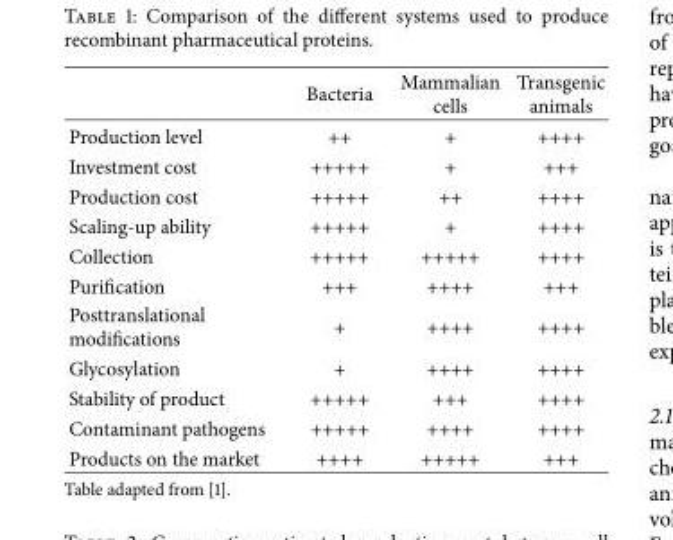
<table><thead><tr><td></td><td>Bacteria</td><td>Mammalian cells</td><td>Transgenic animals</td></tr></thead><tbody><tr><td>Production level</td><td>++</td><td>+</td><td>++++</td></tr><tr><td>Investment cost</td><td>+++++</td><td>+</td><td>+++</td></tr><tr><td>Production cost</td><td>+++++</td><td>++</td><td>++++</td></tr><tr><td>Scaling-up ability</td><td>+++++</td><td>+</td><td>++++</td></tr><tr><td>Collection</td><td>+++++</td><td>+++++</td><td>++++</td></tr><tr><td>Purification</td><td>+++</td><td>++++</td><td>+++</td></tr><tr><td>Posttranslational modifications</td><td>+</td><td>++++</td><td>++++</td></tr><tr><td>Glycosylation</td><td>+</td><td>++++</td><td>++++</td></tr><tr><td>Stability of product</td><td>+++++</td><td>+++</td><td>++++</td></tr><tr><td>Contaminant pathogens</td><td>+++++</td><td>++++</td><td>++++</td></tr><tr><td>Products on the market</td><td>++++</td><td>+++++</td><td>+++</td></tr></tbody></table>